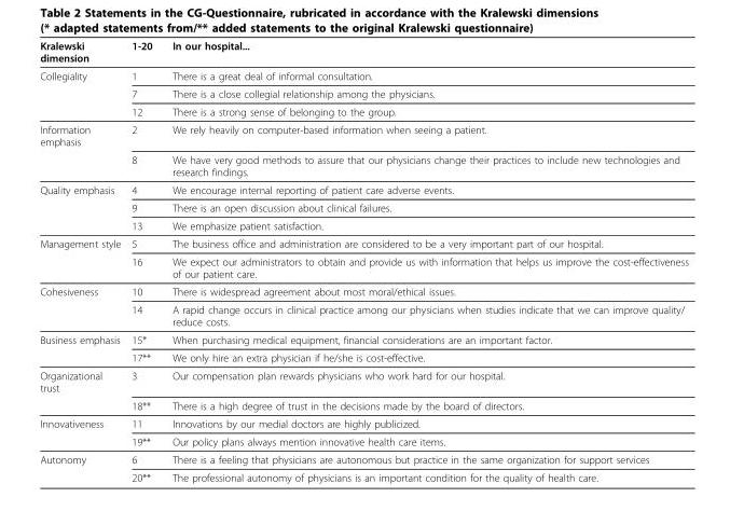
<table><thead><tr><td>Kralewski dimension</td><td>1-20</td><td>In our hospital...</td></tr></thead><tbody><tr><td rowspan="3">Collegiality</td><td>1</td><td>There is a great deal of informal consultation.</td></tr><tr><td>7</td><td>There is a close collegial relationship among the physicians.</td></tr><tr><td>12</td><td>There is a strong sense of belonging to the group.</td></tr><tr><td rowspan="2">Information emphasis</td><td>2</td><td>We rely heavily on computer-based information when seeing a patient.</td></tr><tr><td>8</td><td>We have very good methods to assure that our physicians change their practices to include new technologies and research findings.</td></tr><tr><td rowspan="3">Quality emphasis</td><td>4</td><td>We encourage internal reporting of patient care adverse events.</td></tr><tr><td>9</td><td>There is an open discussion about clinical failures.</td></tr><tr><td>13</td><td>We emphasize patient satisfaction.</td></tr><tr><td rowspan="2">Management style</td><td>5</td><td>The business office and administration are considered to be a very important part of our hospital.</td></tr><tr><td>16</td><td>We expect our administrators to obtain and provide us with information that helps us improve the cost-effectiveness of our patient care.</td></tr><tr><td rowspan="2">Cohesiveness</td><td>10</td><td>There is widespread agreement about most moral/ethical issues.</td></tr><tr><td>14</td><td>A rapid change occurs in clinical practice among our physicians when studies indicate that we can improve quality/ reduce costs.</td></tr><tr><td rowspan="2">Business emphasis</td><td>15*</td><td>When purchasing medical equipment, financial considerations are an important factor.</td></tr><tr><td>17**</td><td>We only hire an extra physician if he/she is cost-effective.</td></tr><tr><td rowspan="2">Organizational trust</td><td>3</td><td>Our compensation plan rewards physicians who work hard for our hospital.</td></tr><tr><td>18**</td><td>There is a high degree of trust in the decisions made by the board of directors.</td></tr><tr><td rowspan="2">Innovativeness</td><td>11</td><td>Innovations by our medial doctors are highly publicized.</td></tr><tr><td>19**</td><td>Our policy plans always mention innovative health care items.</td></tr><tr><td rowspan="2">Autonomy</td><td>6</td><td>There is a feeling that physicians are autonomous but practice in the same organization for support services</td></tr><tr><td>20**</td><td>The professional autonomy of physicians is an important condition for the quality of health care.</td></tr></tbody></table>